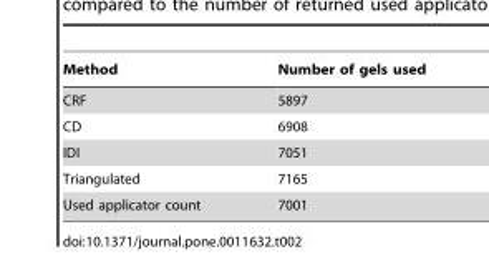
<table><thead><tr><td>Method</td><td>Number of gels used</td></tr></thead><tbody><tr><td>CRF</td><td>5897</td></tr><tr><td>CD</td><td>6908</td></tr><tr><td>IDI</td><td>7051</td></tr><tr><td>Triangulated</td><td>7165</td></tr><tr><td>Used applicator count</td><td>7001</td></tr></tbody></table>